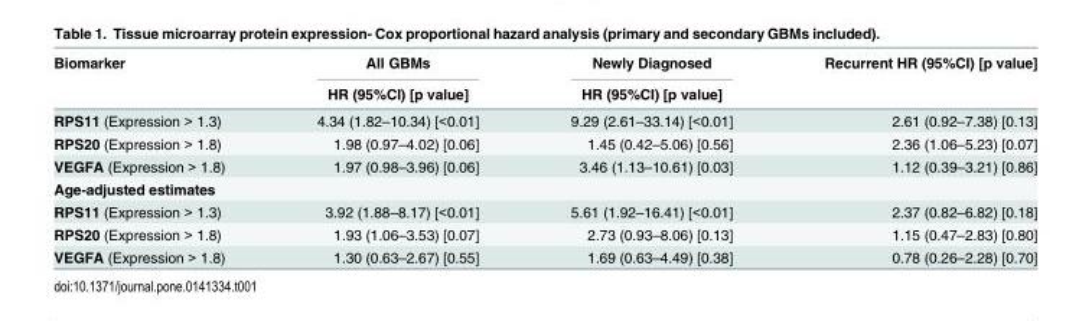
<table><thead><tr><td rowspan="2">Biomarker</td><td rowspan="2">All GBMs HR (95%CI) [p value]</td><td rowspan="2">Newly Diagnosed HR (95%CI) [p value]</td><td rowspan="2">Recurrent HR (95%CI) [p value]</td></tr><tr></tr></thead><tbody><tr><td>RPS11 (Expression &gt; 1.3)</td><td>4.34 (1.82–10.34) [&lt;0.01]</td><td>9.29 (2.61–33.14) [&lt;0.01]</td><td>2.61 (0.92–7.38) [0.13]</td></tr><tr><td>RPS20 (Expression &gt; 1.8)</td><td>1.98 (0.97–4.02) [0.06]</td><td>1.45 (0.42–5.06) [0.56]</td><td>2.36 (1.06–5.23) [0.07]</td></tr><tr><td>VEGFA (Expression &gt; 1.8)</td><td>1.97 (0.98–3.96) [0.06]</td><td>3.46 (1.13–10.61) [0.03]</td><td>1.12 (0.39–3.21) [0.86]</td></tr><tr><td colspan="4">Age-adjusted estimates</td></tr><tr><td>RPS11 (Expression &gt; 1.3)</td><td>3.92 (1.88–8.17) [&lt;0.01]</td><td>5.61 (1.92–16.41) [&lt;0.01]</td><td>2.37 (0.82–6.82) [0.18]</td></tr><tr><td>RPS20 (Expression &gt; 1.8)</td><td>1.93 (1.06–3.53) [0.07]</td><td>2.73 (0.93–8.06) [0.13]</td><td>1.15 (0.47–2.83) [0.80]</td></tr><tr><td>VEGFA (Expression &gt; 1.8)</td><td>1.30 (0.63–2.67) [0.55]</td><td>1.69 (0.63–4.49) [0.38]</td><td>0.78 (0.26–2.28) [0.70]</td></tr></tbody></table>